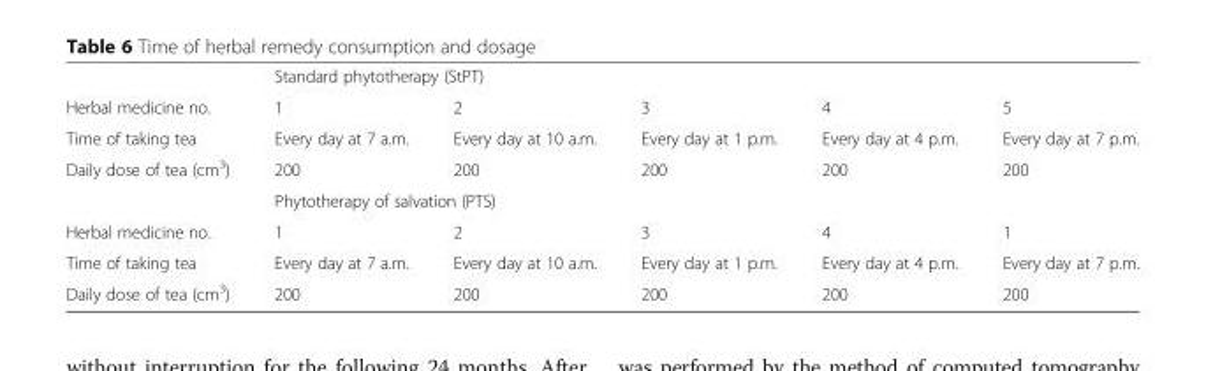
<table><thead><tr><td rowspan="2">Herbal medicine no.</td><td colspan="5">Standard phytotherapy (StPT)</td></tr><tr><td>1</td><td>2</td><td>3</td><td>4</td><td>5</td></tr></thead><tbody><tr><td>Time of taking tea</td><td>Every day at 7 a.m.</td><td>Every day at 10 a.m.</td><td>Every day at 1 p.m.</td><td>Every day at 4 p.m.</td><td>Every day at 7 p.m.</td></tr><tr><td rowspan="2">Daily dose of tea (cm<sup>3</sup>)</td><td>200</td><td>200</td><td>200</td><td>200</td><td>200</td></tr><tr><td colspan="5">Phytotherapy of salvation (PTS)</td></tr><tr><td>Herbal medicine no.</td><td>1</td><td>2</td><td>3</td><td>4</td><td>1</td></tr><tr><td>Time of taking tea</td><td>Every day at 7 a.m.</td><td>Every day at 10 a.m.</td><td>Every day at 1 p.m.</td><td>Every day at 4 p.m.</td><td>Every day at 7 p.m.</td></tr><tr><td>Daily dose of tea (cm<sup>3</sup>)</td><td>200</td><td>200</td><td>200</td><td>200</td><td>200</td></tr></tbody></table>